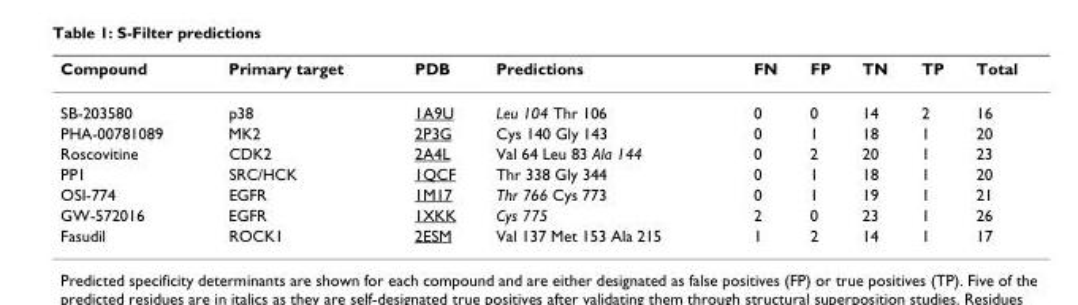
<table><thead><tr><td>Compound</td><td>Primary target</td><td>PDB</td><td>Predictions</td><td>FN</td><td>FP</td><td>TN</td><td>TP</td><td>Total</td></tr></thead><tbody><tr><td>SB-203580</td><td>p38</td><td>1A9U</td><td>Leu 104 Thr 106</td><td>0</td><td>0</td><td>14</td><td>2</td><td>16</td></tr><tr><td>PHA-00781089</td><td>MK2</td><td>2P3G</td><td>Cys 140 Gly 143</td><td>0</td><td>1</td><td>18</td><td>1</td><td>20</td></tr><tr><td>Roscovitine</td><td>CDK2</td><td>2A4L</td><td>Val 64 Leu 83 Ala 144</td><td>0</td><td>2</td><td>20</td><td>1</td><td>23</td></tr><tr><td>PP1</td><td>SRC/HCK</td><td>1QCF</td><td>Thr 338 Gly 344</td><td>0</td><td>1</td><td>18</td><td>1</td><td>20</td></tr><tr><td>OSI-774</td><td>EGFR</td><td>1M17</td><td>Thr 766 Cys 773</td><td>0</td><td>1</td><td>19</td><td>1</td><td>21</td></tr><tr><td>GW-572016</td><td>EGFR</td><td>1XKK</td><td>Cys 775</td><td>2</td><td>0</td><td>23</td><td>1</td><td>26</td></tr><tr><td>Fasudil</td><td>ROCK1</td><td>2ESM</td><td>Val 137 Met 153 Ala 215</td><td>1</td><td>2</td><td>14</td><td>1</td><td>17</td></tr></tbody></table>